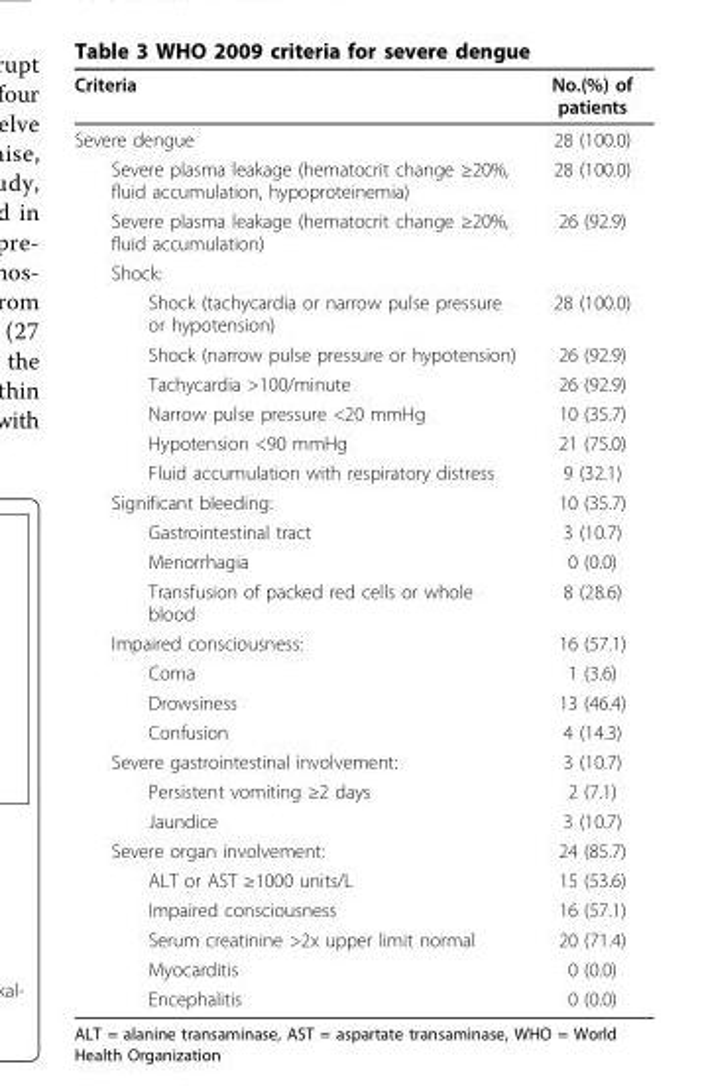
<table><thead><tr><td>Criteria</td><td>No.(%) of patients</td></tr></thead><tbody><tr><td>Severe dengue</td><td>28 (100.0)</td></tr><tr><td>Severe plasma leakage (hematocrit change ≥20%, fluid accumulation, hypoproteinemia)</td><td>28 (100.0)</td></tr><tr><td>Severe plasma leakage (hematocrit change ≥20%, fluid accumulation)</td><td>26 (92.9)</td></tr><tr><td colspan="2">Shock:</td></tr><tr><td>Shock (tachycardia or narrow pulse pressure or hypotension)</td><td>28 (100.0)</td></tr><tr><td>Shock (narrow pulse pressure or hypotension)</td><td>26 (92.9)</td></tr><tr><td>Tachycardia &gt;100/minute</td><td>26 (92.9)</td></tr><tr><td>Narrow pulse pressure &lt;20 mmHg</td><td>10 (35.7)</td></tr><tr><td>Hypotension &lt;90 mmHg</td><td>21 (75.0)</td></tr><tr><td>Fluid accumulation with respiratory distress</td><td>9 (32.1)</td></tr><tr><td>Significant bleeding:</td><td>10 (35.7)</td></tr><tr><td>Gastrointestinal tract</td><td>3 (10.7)</td></tr><tr><td>Menorrhagia</td><td>0 (0.0)</td></tr><tr><td>Transfusion of packed red cells or whole blood</td><td>8 (28.6)</td></tr><tr><td>Impaired consciousness:</td><td>16 (57.1)</td></tr><tr><td>Coma</td><td>1 (3.6)</td></tr><tr><td>Drowsiness</td><td>13 (46.4)</td></tr><tr><td>Confusion</td><td>4 (14.3)</td></tr><tr><td>Severe gastrointestinal involvement:</td><td>3 (10.7)</td></tr><tr><td>Persistent vomiting ≥2 days</td><td>2 (7.1)</td></tr><tr><td>Jaundice</td><td>3 (10.7)</td></tr><tr><td>Severe organ involvement:</td><td>24 (85.7)</td></tr><tr><td>ALT or AST ≥1000 units/L</td><td>15 (53.6)</td></tr><tr><td>Impaired consciousness</td><td>16 (57.1)</td></tr><tr><td>Serum creatinine &gt;2x upper limit normal</td><td>20 (71.4)</td></tr><tr><td>Myocarditis</td><td>0 (0.0)</td></tr><tr><td>Encephalitis</td><td>0 (0.0)</td></tr></tbody></table>